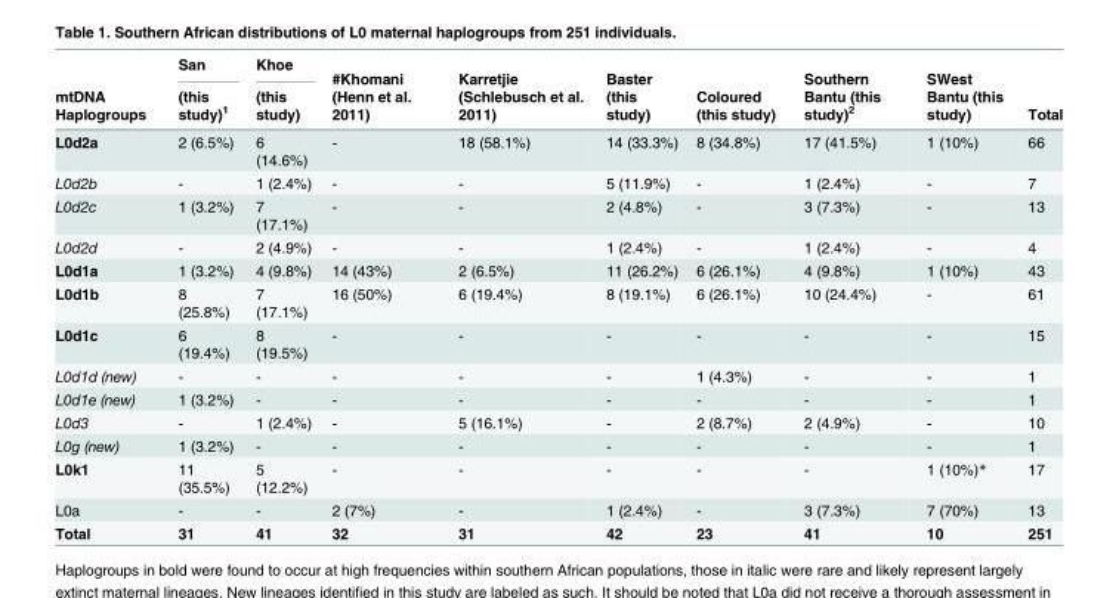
<table><thead><tr><td rowspan="2">mtDNA Haplogroups</td><td rowspan="2">San (this study)<sup>1</sup></td><td rowspan="2">Khoe (this study)</td><td rowspan="2">#Khomani (Henn et al. 2011)</td><td rowspan="2">Karretjie (Schlebusch et al. 2011)</td><td rowspan="2">Baster (this study)</td><td rowspan="2">Coloured (this study)</td><td rowspan="2">Southern Bantu (this study)<sup>2</sup></td><td rowspan="2">SWest Bantu (this study)</td><td rowspan="2">Total</td></tr><tr></tr></thead><tbody><tr><td>L0d2a</td><td>2 (6.5%)</td><td>6 (14.6%)</td><td>-</td><td>18 (58.1%)</td><td>14 (33.3%)</td><td>8 (34.8%)</td><td>17 (41.5%)</td><td>1 (10%)</td><td>66</td></tr><tr><td>L0d2b</td><td>-</td><td>1 (2.4%)</td><td>-</td><td>-</td><td>5 (11.9%)</td><td>-</td><td>1 (2.4%)</td><td>-</td><td>7</td></tr><tr><td>L0d2c</td><td>1 (3.2%)</td><td>7 (17.1%)</td><td>-</td><td>-</td><td>2 (4.8%)</td><td>-</td><td>3 (7.3%)</td><td>-</td><td>13</td></tr><tr><td>L0d2d</td><td>-</td><td>2 (4.9%)</td><td>-</td><td>-</td><td>1 (2.4%)</td><td>-</td><td>1 (2.4%)</td><td>-</td><td>4</td></tr><tr><td>L0d1a</td><td>1 (3.2%)</td><td>4 (9.8%)</td><td>14 (43%)</td><td>2 (6.5%)</td><td>11 (26.2%)</td><td>6 (26.1%)</td><td>4 (9.8%)</td><td>1 (10%)</td><td>43</td></tr><tr><td>L0d1b</td><td>8 (25.8%)</td><td>7 (17.1%)</td><td>16 (50%)</td><td>6 (19.4%)</td><td>8 (19.1%)</td><td>6 (26.1%)</td><td>10 (24.4%)</td><td>-</td><td>61</td></tr><tr><td>L0d1c</td><td>6 (19.4%)</td><td>8 (19.5%)</td><td>-</td><td>-</td><td>-</td><td>-</td><td>-</td><td>-</td><td>15</td></tr><tr><td>L0d1d (new)</td><td>-</td><td>-</td><td>-</td><td>-</td><td>-</td><td>1 (4.3%)</td><td>-</td><td>-</td><td>1</td></tr><tr><td>L0d1e (new)</td><td>1 (3.2%)</td><td>-</td><td>-</td><td>-</td><td>-</td><td>-</td><td>-</td><td>-</td><td>1</td></tr><tr><td>L0d3</td><td>-</td><td>1 (2.4%)</td><td>-</td><td>5 (16.1%)</td><td>-</td><td>2 (8.7%)</td><td>2 (4.9%)</td><td>-</td><td>10</td></tr><tr><td>L0g (new)</td><td>1 (3.2%)</td><td>-</td><td>-</td><td>-</td><td>-</td><td>-</td><td>-</td><td>-</td><td>1</td></tr><tr><td>L0k1</td><td>11 (35.5%)</td><td>5 (12.2%)</td><td>-</td><td>-</td><td>-</td><td>-</td><td>-</td><td>1 (10%)*</td><td>17</td></tr><tr><td>L0a</td><td>-</td><td>-</td><td>2 (7%)</td><td>-</td><td>1 (2.4%)</td><td>-</td><td>3 (7.3%)</td><td>7 (70%)</td><td>13</td></tr><tr><td>Total</td><td>31</td><td>41</td><td>32</td><td>31</td><td>42</td><td>23</td><td>41</td><td>10</td><td>251</td></tr></tbody></table>